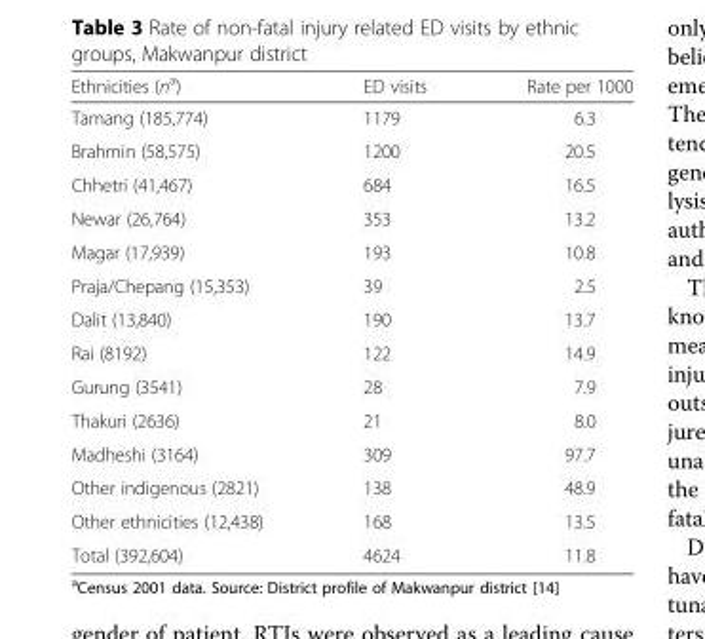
<table><thead><tr><td>Ethnicities (n<sup>a</sup>)</td><td>ED visits</td><td>Rate per 1000</td></tr></thead><tbody><tr><td>Tamang (185,774)</td><td>1179</td><td>6.3</td></tr><tr><td>Brahmin (58,575)</td><td>1200</td><td>20.5</td></tr><tr><td>Chhetri (41,467)</td><td>684</td><td>16.5</td></tr><tr><td>Newar (26,764)</td><td>353</td><td>13.2</td></tr><tr><td>Magar (17,939)</td><td>193</td><td>10.8</td></tr><tr><td>Praja/Chepang (15,353)</td><td>39</td><td>2.5</td></tr><tr><td>Dalit (13,840)</td><td>190</td><td>13.7</td></tr><tr><td>Rai (8192)</td><td>122</td><td>14.9</td></tr><tr><td>Gurung (3541)</td><td>28</td><td>7.9</td></tr><tr><td>Thakuri (2636)</td><td>21</td><td>8.0</td></tr><tr><td>Madheshi (3164)</td><td>309</td><td>97.7</td></tr><tr><td>Other indigenous (2821)</td><td>138</td><td>48.9</td></tr><tr><td>Other ethnicities (12,438)</td><td>168</td><td>13.5</td></tr><tr><td>Total (392,604)</td><td>4624</td><td>11.8</td></tr></tbody></table>